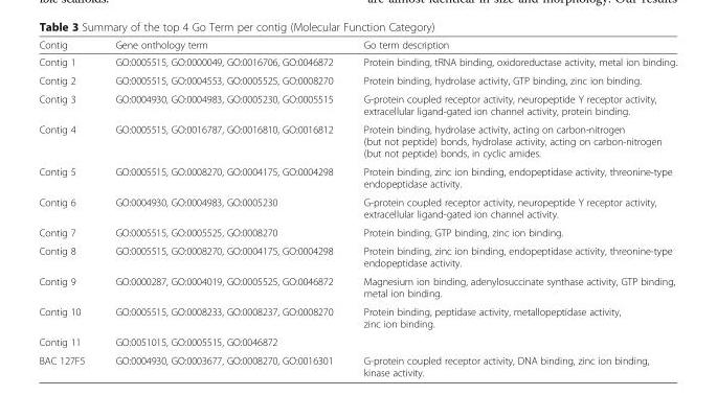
<table><thead><tr><td>Contig</td><td>Gene onthology term</td><td>Go term description</td></tr></thead><tbody><tr><td>Contig 1</td><td>GO:0005515, GO:0000049, GO:0016706, GO:0046872</td><td>Protein binding, tRNA binding, oxidoreductase activity, metal ion binding.</td></tr><tr><td>Contig 2</td><td>GO:0005515, GO:0004553, GO:0005525, GO:0008270</td><td>Protein binding, hydrolase activity, GTP binding, zinc ion binding.</td></tr><tr><td>Contig 3</td><td>GO:0004930, GO:0004983, GO:0005230, GO:0005515</td><td>G-protein coupled receptor activity, neuropeptide Y receptor activity, extracellular ligand-gated ion channel activity, protein binding.</td></tr><tr><td>Contig 4</td><td>GO:0005515, GO:0016787, GO:0016810, GO:0016812</td><td>Protein binding, hydrolase activity, acting on carbon-nitrogen (but not peptide) bonds, hydrolase activity, acting on carbon-nitrogen (but not peptide) bonds, in cyclic amides.</td></tr><tr><td>Contig 5</td><td>GO:0005515, GO:0008270, GO:0004175, GO:0004298</td><td>Protein binding, zinc ion binding, endopeptidase activity, threonine-type endopeptidase activity.</td></tr><tr><td>Contig 6</td><td>GO:0004930, GO:0004983, GO:0005230</td><td>G-protein coupled receptor activity, neuropeptide Y receptor activity, extracellular ligand-gated ion channel activity.</td></tr><tr><td>Contig 7</td><td>GO:0005515, GO:0005525, GO:0008270</td><td>Protein binding, GTP binding, zinc ion binding.</td></tr><tr><td>Contig 8</td><td>GO:0005515, GO:0008270, GO:0004175, GO:0004298</td><td>Protein binding, zinc ion binding, endopeptidase activity, threonine-type endopeptidase activity.</td></tr><tr><td>Contig 9</td><td>GO:0000287, GO:0004019, GO:0005525, GO:0046872</td><td>Magnesium ion binding, adenylosuccinate synthase activity, GTP binding, metal ion binding.</td></tr><tr><td>Contig 10</td><td>GO:0005515, GO:0008233, GO:0008237, GO:0008270</td><td>Protein binding, peptidase activity, metallopeptidase activity, zinc ion binding.</td></tr><tr><td>Contig 11</td><td>GO:0051015, GO:0005515, GO:0046872</td><td></td></tr><tr><td>BAC 127F5</td><td>GO:0004930, GO:0003677, GO:0008270, GO:0016301</td><td>G-protein coupled receptor activity, DNA binding, zinc ion binding, kinase activity.</td></tr></tbody></table>